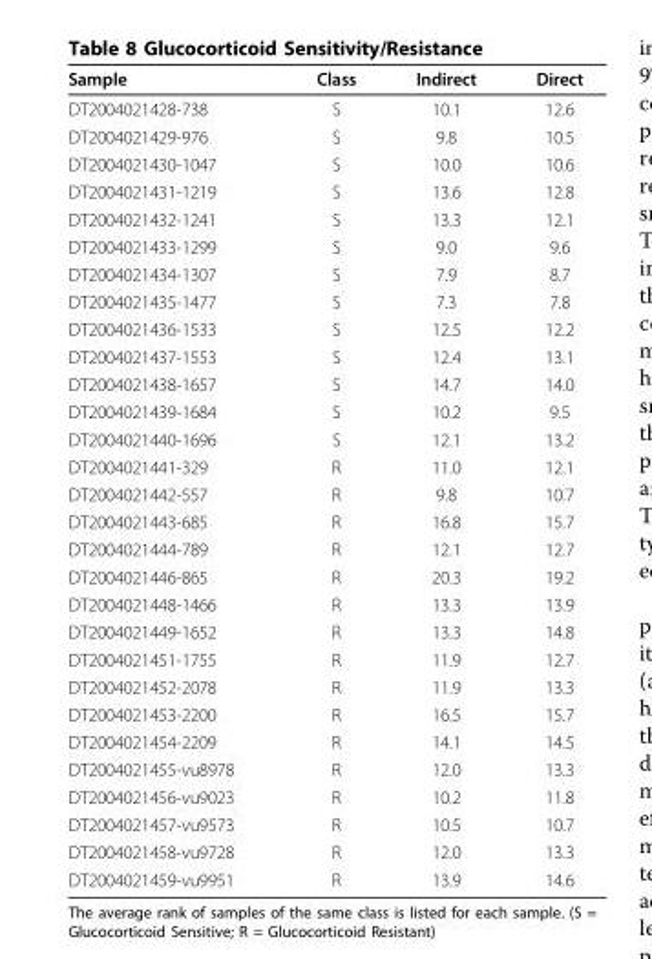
<table><thead><tr><td>Sample</td><td>Class</td><td>Indirect</td><td>Direct</td></tr></thead><tbody><tr><td>DT2004021428-738</td><td>S</td><td>10.1</td><td>12.6</td></tr><tr><td>DT2004021429-976</td><td>S</td><td>9.8</td><td>10.5</td></tr><tr><td>DT2004021430-1047</td><td>S</td><td>10.0</td><td>10.6</td></tr><tr><td>DT2004021431-1219</td><td>S</td><td>13.6</td><td>12.8</td></tr><tr><td>DT2004021432-1241</td><td>S</td><td>13.3</td><td>12.1</td></tr><tr><td>DT2004021433-1299</td><td>S</td><td>9.0</td><td>9.6</td></tr><tr><td>DT2004021434-1307</td><td>S</td><td>7.9</td><td>8.7</td></tr><tr><td>DT2004021435-1477</td><td>S</td><td>7.3</td><td>7.8</td></tr><tr><td>DT2004021436-1533</td><td>S</td><td>12.5</td><td>12.2</td></tr><tr><td>DT2004021437-1553</td><td>S</td><td>12.4</td><td>13.1</td></tr><tr><td>DT2004021438-1657</td><td>S</td><td>14.7</td><td>14.0</td></tr><tr><td>DT2004021439-1684</td><td>S</td><td>10.2</td><td>9.5</td></tr><tr><td>DT2004021440-1696</td><td>S</td><td>12.1</td><td>13.2</td></tr><tr><td>DT2004021441-329</td><td>R</td><td>11.0</td><td>12.1</td></tr><tr><td>DT2004021442-557</td><td>R</td><td>9.8</td><td>10.7</td></tr><tr><td>DT2004021443-685</td><td>R</td><td>16.8</td><td>15.7</td></tr><tr><td>DT2004021444-789</td><td>R</td><td>12.1</td><td>12.7</td></tr><tr><td>DT2004021446-865</td><td>R</td><td>20.3</td><td>19.2</td></tr><tr><td>DT2004021448-1466</td><td>R</td><td>13.3</td><td>13.9</td></tr><tr><td>DT2004021449-1652</td><td>R</td><td>13.3</td><td>14.8</td></tr><tr><td>DT2004021451-1755</td><td>R</td><td>11.9</td><td>12.7</td></tr><tr><td>DT2004021452-2078</td><td>R</td><td>11.9</td><td>13.3</td></tr><tr><td>DT2004021453-2200</td><td>R</td><td>16.5</td><td>15.7</td></tr><tr><td>DT2004021454-2209</td><td>R</td><td>14.1</td><td>14.5</td></tr><tr><td>DT2004021455-vu8978</td><td>R</td><td>12.0</td><td>13.3</td></tr><tr><td>DT2004021456-vu9023</td><td>R</td><td>10.2</td><td>11.8</td></tr><tr><td>DT2004021457-vu9573</td><td>R</td><td>10.5</td><td>10.7</td></tr><tr><td>DT2004021458-vu9728</td><td>R</td><td>12.0</td><td>13.3</td></tr><tr><td>DT2004021459-vu9951</td><td>R</td><td>13.9</td><td>14.6</td></tr></tbody></table>